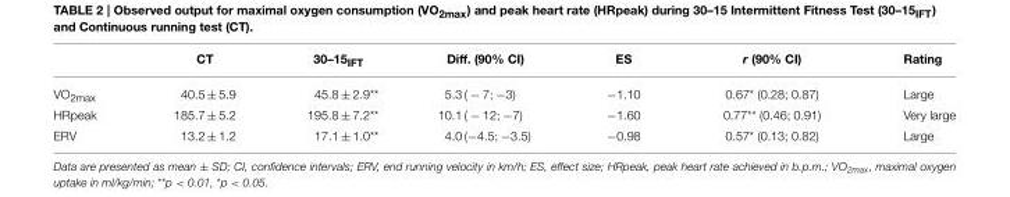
<table><thead><tr><td></td><td>CT</td><td>30–15<sub>IFT</sub></td><td>Diff. (90% CI)</td><td>ES</td><td>r (90% CI)</td><td>Rating</td></tr></thead><tbody><tr><td>VO<sub>2max</sub></td><td>40.5 ± 5.9</td><td>45.8 ± 2.9**</td><td>5.3 ( − 7; −3)</td><td>−1.10</td><td>0.67* (0.28; 0.87)</td><td>Large</td></tr><tr><td>HRpeak</td><td>185.7 ± 5.2</td><td>195.8 ± 7.2**</td><td>10.1 ( − 12; −7)</td><td>−1.60</td><td>0.77** (0.46; 0.91)</td><td>Very large</td></tr><tr><td>ERV</td><td>13.2 ± 1.2</td><td>17.1 ± 1.0**</td><td>4.0 (−4.5; −3.5)</td><td>−0.98</td><td>0.57* (0.13; 0.82)</td><td>Large</td></tr></tbody></table>